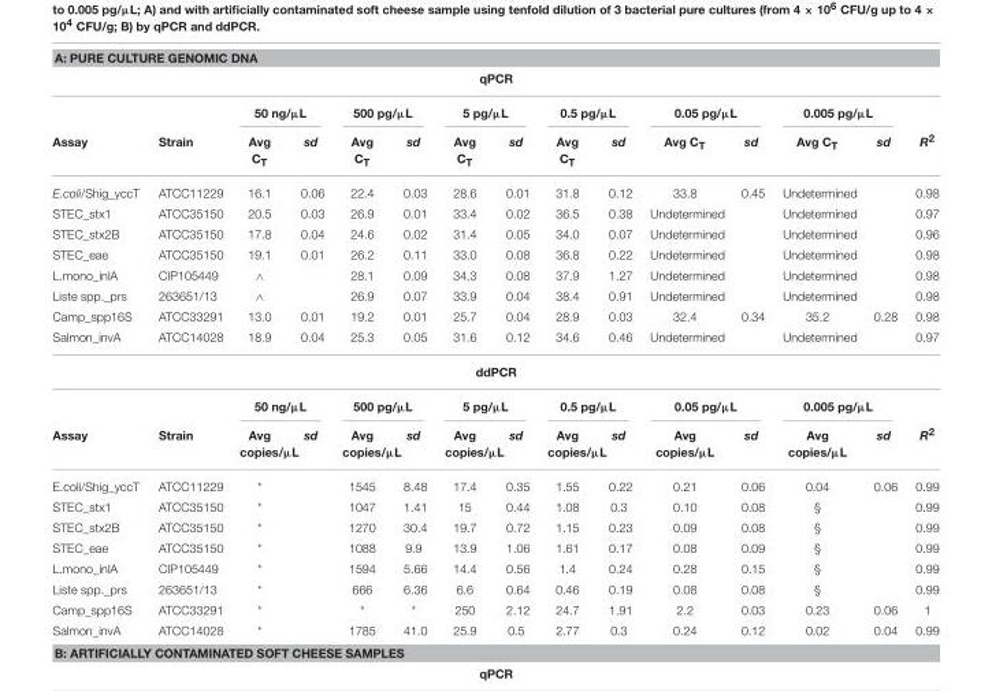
<table><thead><tr><td rowspan="2" colspan="15">A: PURE CULTURE GENOMIC DNA qPCR</td></tr><tr></tr><tr><td rowspan="2">Assay</td><td rowspan="2">Strain</td><td colspan="2">50 ng/µL</td><td colspan="2">500 pg/µL</td><td colspan="2">5 pg/µL</td><td colspan="2">0.5 pg/µL</td><td colspan="2">0.05 pg/µL</td><td colspan="2">0.005 pg/µL</td><td rowspan="2">R2</td></tr><tr><td>Avg C<sub>T</sub></td><td>sd</td><td>Avg C<sub>T</sub></td><td>sd</td><td>Avg C<sub>T</sub></td><td>sd</td><td>Avg C<sub>T</sub></td><td>sd</td><td>Avg C<sub>T</sub></td><td>sd</td><td>Avg C<sub>T</sub></td><td>sd</td></tr></thead><tbody><tr><td>E.coli/Shig_yccT</td><td>ATCC11229</td><td>16.1</td><td>0.06</td><td>22.4</td><td>0.03</td><td>28.6</td><td>0.01</td><td>31.8</td><td>0.12</td><td>33.8</td><td>0.45</td><td>Undetermined</td><td></td><td>0.98</td></tr><tr><td>STEC_stx1</td><td>ATCC35150</td><td>20.5</td><td>0.03</td><td>26.9</td><td>0.01</td><td>33.4</td><td>0.02</td><td>36.5</td><td>0.38</td><td>Undetermined</td><td></td><td>Undetermined</td><td></td><td>0.97</td></tr><tr><td>STEC_stx2B</td><td>ATCC35150</td><td>17.8</td><td>0.04</td><td>24.6</td><td>0.02</td><td>31.4</td><td>0.05</td><td>34.0</td><td>0.07</td><td>Undetermined</td><td></td><td>Undetermined</td><td></td><td>0.96</td></tr><tr><td>STEC_eae</td><td>ATCC35150</td><td>19.1</td><td>0.01</td><td>26.2</td><td>0.11</td><td>33.0</td><td>0.08</td><td>36.8</td><td>0.22</td><td>Undetermined</td><td></td><td>Undetermined</td><td></td><td>0.98</td></tr><tr><td>L.mono_inlA</td><td>CIP105449</td><td><sup>∧</sup></td><td></td><td>28.1</td><td>0.09</td><td>34.3</td><td>0.08</td><td>37.9</td><td>1.27</td><td>Undetermined</td><td></td><td>Undetermined</td><td></td><td>0.98</td></tr><tr><td>Liste spp._prs</td><td>263651/13</td><td><sup>∧</sup></td><td></td><td>26.9</td><td>0.07</td><td>33.9</td><td>0.04</td><td>38.4</td><td>0.91</td><td>Undetermined</td><td></td><td>Undetermined</td><td></td><td>0.98</td></tr><tr><td>Camp_spp16S</td><td>ATCC33291</td><td>13.0</td><td>0.01</td><td>19.2</td><td>0.01</td><td>25.7</td><td>0.04</td><td>28.9</td><td>0.03</td><td>32.4</td><td>0.34</td><td>35.2</td><td>0.28</td><td>0.98</td></tr><tr><td>Salmon_invA</td><td>ATCC14028</td><td>18.9</td><td>0.04</td><td>25.3</td><td>0.05</td><td>31.6</td><td>0.12</td><td>34.6</td><td>0.46</td><td>Undetermined</td><td></td><td>Undetermined</td><td></td><td>0.97</td></tr><tr><td colspan="15">ddPCR</td></tr><tr><td></td><td></td><td colspan="2">50 ng/µL</td><td colspan="2">500 pg/µL</td><td colspan="2">5 pg/µL</td><td colspan="2">0.5 pg/µL</td><td colspan="2">0.05 pg/µL</td><td colspan="2">0.005 pg/µL</td><td></td></tr><tr><td>Assay</td><td>Strain</td><td>Avg copies/µL</td><td>sd</td><td>Avg copies/µL</td><td>sd</td><td>Avg copies/µL</td><td>sd</td><td>Avg copies/µL</td><td>sd</td><td>Avg copies/µL</td><td>sd</td><td>Avg copies/µL</td><td>sd</td><td>R<sup>2</sup></td></tr><tr><td>E.coli/Shig_yccT</td><td>ATCC11229</td><td>*</td><td></td><td>1545</td><td>8.48</td><td>17.4</td><td>0.35</td><td>1.55</td><td>0.22</td><td>0.21</td><td>0.06</td><td>0.04</td><td>0.06</td><td>0.99</td></tr><tr><td>STEC_stx1</td><td>ATCC35150</td><td>*</td><td></td><td>1047</td><td>1.41</td><td>15</td><td>0.44</td><td>1.08</td><td>0.3</td><td>0.10</td><td>0.08</td><td><sup>§</sup></td><td></td><td>0.99</td></tr><tr><td>STEC_stx2B</td><td>ATCC35150</td><td>*</td><td></td><td>1270</td><td>30.4</td><td>19.7</td><td>0.72</td><td>1.15</td><td>0.23</td><td>0.09</td><td>0.08</td><td><sup>§</sup></td><td></td><td>0.99</td></tr><tr><td>STEC_eae</td><td>ATCC35150</td><td>*</td><td></td><td>1088</td><td>9.9</td><td>13.9</td><td>1.06</td><td>1.61</td><td>0.17</td><td>0.08</td><td>0.09</td><td><sup>§</sup></td><td></td><td>0.99</td></tr><tr><td>L.mono_inlA</td><td>CIP105449</td><td>*</td><td></td><td>1594</td><td>5.66</td><td>14.4</td><td>0.56</td><td>1.4</td><td>0.24</td><td>0.28</td><td>0.15</td><td><sup>§</sup></td><td></td><td>0.99</td></tr><tr><td>Liste spp._prs</td><td>263651/13</td><td>*</td><td></td><td>666</td><td>6.36</td><td>6.6</td><td>0.64</td><td>0.46</td><td>0.19</td><td>0.08</td><td>0.08</td><td><sup>§</sup></td><td></td><td>0.99</td></tr><tr><td>Camp_spp16S</td><td>ATCC33291</td><td>*</td><td></td><td>*</td><td>*</td><td>250</td><td>2.12</td><td>24.7</td><td>1.91</td><td>2.2</td><td>0.03</td><td>0.23</td><td>0.06</td><td>1</td></tr><tr><td>Salmon_invA</td><td>ATCC14028</td><td>*</td><td></td><td>1785</td><td>41.0</td><td>25.9</td><td>0.5</td><td>2.77</td><td>0.3</td><td>0.24</td><td>0.12</td><td>0.02</td><td>0.04</td><td>0.99</td></tr></tbody></table>